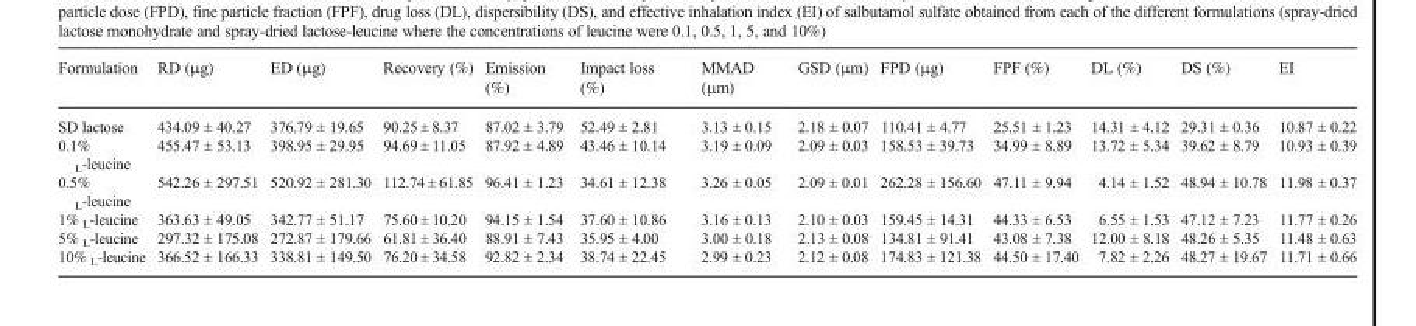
<table><thead><tr><td>Formulation</td><td>RD (μg)</td><td>ED (μg)</td><td>Recovery (%)</td><td>Emission (%)</td><td>Impact loss (%)</td><td>MMAD (μm)</td><td>GSD (μm)</td><td>FPD (μg)</td><td>FPF (%)</td><td>DL (%)</td><td>DS (%)</td><td>EI</td></tr></thead><tbody><tr><td>SD lactose</td><td>434.09 ± 40.27</td><td>376.79 ± 19.65</td><td>90.25 ± 8.37</td><td>87.02 ± 3.79</td><td>52.49 ± 2.81</td><td>3.13 ± 0.15</td><td>2.18 ± 0.07</td><td>110.41 ± 4.77</td><td>25.51 ± 1.23</td><td>14.31 ± 4.12</td><td>29.31 ± 0.36</td><td>10.87 ± 0.22</td></tr><tr><td>0.1% <sub>L</sub>-leucine</td><td>455.47 ± 53.13</td><td>398.95 ± 29.95</td><td>94.69 ± 11.05</td><td>87.92 ± 4.89</td><td>43.46 ± 10.14</td><td>3.19 ± 0.09</td><td>2.09 ± 0.03</td><td>158.53 ± 39.73</td><td>34.99 ± 8.89</td><td>13.72 ± 5.34</td><td>39.62 ± 8.79</td><td>10.93 ± 0.39</td></tr><tr><td>0.5% <sub>L</sub>-leucine</td><td>542.26 ± 297.51</td><td>520.92 ± 281.30</td><td>112.74 ± 61.85</td><td>96.41 ± 1.23</td><td>34.61 ± 12.38</td><td>3.26 ± 0.05</td><td>2.09 ± 0.01</td><td>262.28 ± 156.60</td><td>47.11 ± 9.94</td><td>4.14 ± 1.52</td><td>48.94 ± 10.78</td><td>11.98 ± 0.37</td></tr><tr><td>1% <sub>L</sub>-leucine</td><td>363.63 ± 49.05</td><td>342.77 ± 51.17</td><td>75.60 ± 10.20</td><td>94.15 ± 1.54</td><td>37.60 ± 10.86</td><td>3.16 ± 0.13</td><td>2.10 ± 0.03</td><td>159.45 ± 14.31</td><td>44.33 ± 6.53</td><td>6.55 ± 1.53</td><td>47.12 ± 7.23</td><td>11.77 ± 0.26</td></tr><tr><td>5% <sub>L</sub>-leucine</td><td>297.32 ± 175.08</td><td>272.87 ± 179.66</td><td>61.81 ± 36.40</td><td>88.91 ± 7.43</td><td>35.95 ± 4.00</td><td>3.00 ± 0.18</td><td>2.13 ± 0.08</td><td>134.81 ± 91.41</td><td>43.08 ± 7.38</td><td>12.00 ± 8.18</td><td>48.26 ± 5.35</td><td>11.48 ± 0.63</td></tr><tr><td>10% <sub>L</sub>-leucine</td><td>366.52 ± 166.33</td><td>338.81 ± 149.50</td><td>76.20 ± 34.58</td><td>92.82 ± 2.34</td><td>38.74 ± 22.45</td><td>2.99 ± 0.23</td><td>2.12 ± 0.08</td><td>174.83 ± 121.38</td><td>44.50 ± 17.40</td><td>7.82 ± 2.26</td><td>48.27 ± 19.67</td><td>11.71 ± 0.66</td></tr></tbody></table>